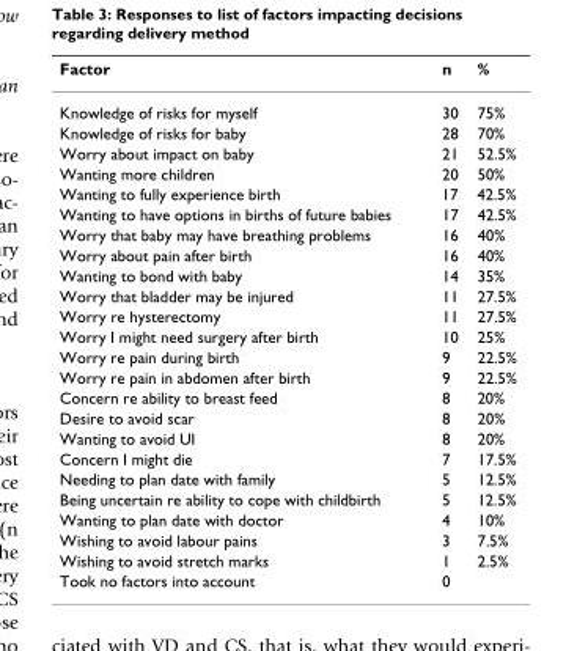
<table><thead><tr><td>Factor</td><td>n</td><td>%</td></tr></thead><tbody><tr><td>Knowledge of risks for myself</td><td>30</td><td>75%</td></tr><tr><td>Knowledge of risks for baby</td><td>28</td><td>70%</td></tr><tr><td>Worry about impact on baby</td><td>21</td><td>52.5%</td></tr><tr><td>Wanting more children</td><td>20</td><td>50%</td></tr><tr><td>Wanting to fully experience birth</td><td>17</td><td>42.5%</td></tr><tr><td>Wanting to have options in births of future babies</td><td>17</td><td>42.5%</td></tr><tr><td>Worry that baby may have breathing problems</td><td>16</td><td>40%</td></tr><tr><td>Worry about pain after birth</td><td>16</td><td>40%</td></tr><tr><td>Wanting to bond with baby</td><td>14</td><td>35%</td></tr><tr><td>Worry that bladder may be injured</td><td>11</td><td>27.5%</td></tr><tr><td>Worry re hysterectomy</td><td>11</td><td>27.5%</td></tr><tr><td>Worry I might need surgery after birth</td><td>10</td><td>25%</td></tr><tr><td>Worry re pain during birth</td><td>9</td><td>22.5%</td></tr><tr><td>Worry re pain in abdomen after birth</td><td>9</td><td>22.5%</td></tr><tr><td>Concern re ability to breast feed</td><td>8</td><td>20%</td></tr><tr><td>Desire to avoid scar</td><td>8</td><td>20%</td></tr><tr><td>Wanting to avoid UI</td><td>8</td><td>20%</td></tr><tr><td>Concern I might die</td><td>7</td><td>17.5%</td></tr><tr><td>Needing to plan date with family</td><td>5</td><td>12.5%</td></tr><tr><td>Being uncertain re ability to cope with childbirth</td><td>5</td><td>12.5%</td></tr><tr><td>Wanting to plan date with doctor</td><td>4</td><td>10%</td></tr><tr><td>Wishing to avoid labour pains</td><td>3</td><td>7.5%</td></tr><tr><td>Wishing to avoid stretch marks</td><td>1</td><td>2.5%</td></tr><tr><td>Took no factors into account</td><td>0</td><td></td></tr></tbody></table>